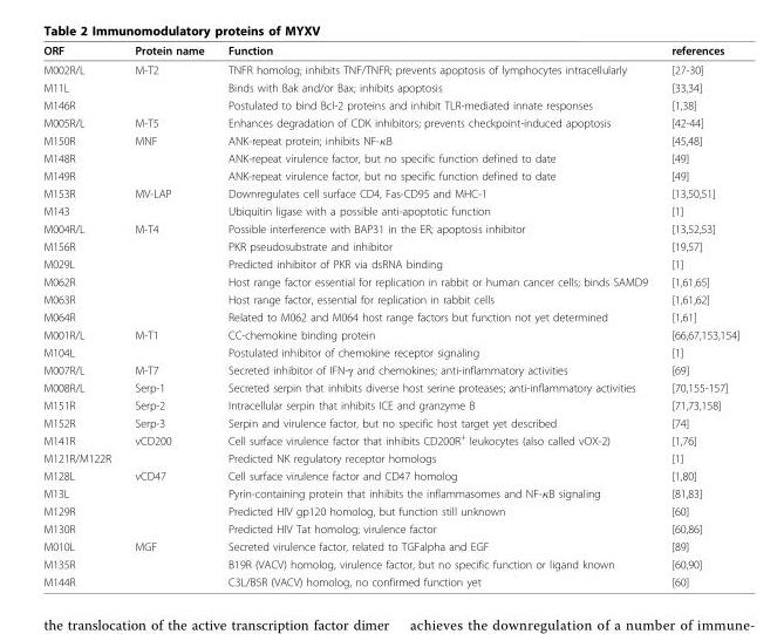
<table><thead><tr><td>ORF</td><td>Protein name</td><td>Function</td><td>references</td></tr></thead><tbody><tr><td>M002R/L</td><td>M-T2</td><td>TNFR homolog; inhibits TNF/TNFR; prevents apoptosis of lymphocytes intracellularly</td><td>[27-30]</td></tr><tr><td>M11L</td><td></td><td>Binds with Bak and/or Bax; inhibits apoptosis</td><td>[33,34]</td></tr><tr><td>M146R</td><td></td><td>Postulated to bind Bcl-2 proteins and inhibit TLR-mediated innate responses</td><td>[1,38]</td></tr><tr><td>M005R/L</td><td>M-T5</td><td>Enhances degradation of CDK inhibitors; prevents checkpoint-induced apoptosis</td><td>[42-44]</td></tr><tr><td>M150R</td><td>MNF</td><td>ANK-repeat protein; inhibits NF-κB</td><td>[45,48]</td></tr><tr><td>M148R</td><td></td><td>ANK-repeat virulence factor, but no specific function defined to date</td><td>[49]</td></tr><tr><td>M149R</td><td></td><td>ANK-repeat virulence factor, but no specific function defined to date</td><td>[49]</td></tr><tr><td>M153R</td><td>MV-LAP</td><td>Downregulates cell surface CD4, Fas-CD95 and MHC-1</td><td>[13,50,51]</td></tr><tr><td>M143</td><td></td><td>Ubiquitin ligase with a possible anti-apoptotic function</td><td>[1]</td></tr><tr><td>M004R/L</td><td>M-T4</td><td>Possible interference with BAP31 in the ER; apoptosis inhibitor</td><td>[13,52,53]</td></tr><tr><td>M156R</td><td></td><td>PKR pseudosubstrate and inhibitor</td><td>[19,57]</td></tr><tr><td>M029L</td><td></td><td>Predicted inhibitor of PKR via dsRNA binding</td><td>[1]</td></tr><tr><td>M062R</td><td></td><td>Host range factor essential for replication in rabbit or human cancer cells; binds SAMD9</td><td>[1,61,65]</td></tr><tr><td>M063R</td><td></td><td>Host range factor, essential for replication in rabbit cells</td><td>[1,61,62]</td></tr><tr><td>M064R</td><td></td><td>Related to M062 and M064 host range factors but function not yet determined</td><td>[1,61]</td></tr><tr><td>M001R/L</td><td>M-T1</td><td>CC-chemokine binding protein</td><td>[66,67,153,154]</td></tr><tr><td>M104L</td><td></td><td>Postulated inhibitor of chemokine receptor signaling</td><td>[1]</td></tr><tr><td>M007R/L</td><td>M-T7</td><td>Secreted inhibitor of IFN-γ and chemokines; anti-inflammatory activities</td><td>[69]</td></tr><tr><td>M008R/L</td><td>Serp-1</td><td>Secreted serpin that inhibits diverse host serine proteases; anti-inflammatory activities</td><td>[70,155-157]</td></tr><tr><td>M151R</td><td>Serp-2</td><td>Intracellular serpin that inhibits ICE and granzyme B</td><td>[71,73,158]</td></tr><tr><td>M152R</td><td>Serp-3</td><td>Serpin and virulence factor, but no specific host target yet described</td><td>[74]</td></tr><tr><td>M141R</td><td>vCD200</td><td>Cell surface virulence factor that inhibits CD200R<sup>+</sup> leukocytes (also called vOX-2)</td><td>[1,76]</td></tr><tr><td>M121R/M122R</td><td></td><td>Predicted NK regulatory receptor homologs</td><td>[1]</td></tr><tr><td>M128L</td><td>vCD47</td><td>Cell surface virulence factor and CD47 homolog</td><td>[1,80]</td></tr><tr><td>M13L</td><td></td><td>Pyrin-containing protein that inhibits the inflammasomes and NF-κB signaling</td><td>[81,83]</td></tr><tr><td>M129R</td><td></td><td>Predicted HIV gp120 homolog, but function still unknown</td><td>[60]</td></tr><tr><td>M130R</td><td></td><td>Predicted HIV Tat homolog; virulence factor</td><td>[60,86]</td></tr><tr><td>M010L</td><td>MGF</td><td>Secreted virulence factor, related to TGFalpha and EGF</td><td>[89]</td></tr><tr><td>M135R</td><td></td><td>B19R (VACV) homolog, virulence factor, but no specific function or ligand known</td><td>[60,90]</td></tr><tr><td>M144R</td><td></td><td>C3L/B5R (VACV) homolog, no confirmed function yet</td><td>[60]</td></tr></tbody></table>